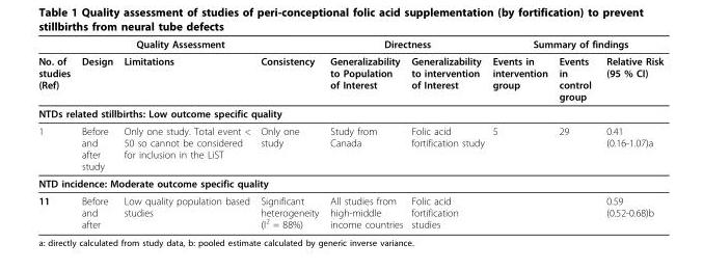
<table><thead><tr><td colspan="4">Quality Assessment</td><td colspan="2">Directness</td><td colspan="3">Summary of findings</td></tr><tr><td>No. of studies (Ref)</td><td>Design</td><td>Limitations</td><td>Consistency</td><td>Generalizability to Population of Interest</td><td>Generalizability to intervention of Interest</td><td>Events in intervention group</td><td>Events in control group</td><td>Relative Risk (95 % CI)</td></tr></thead><tbody><tr><td colspan="9">NTDs related stillbirths: Low outcome specific quality</td></tr><tr><td>1</td><td>Before and after study</td><td>Only one study. Total event &lt; 50 so cannot be considered for inclusion in the LiST</td><td>Only one study</td><td>Study from Canada</td><td>Folic acid fortification study</td><td>5</td><td>29</td><td>0.41 (0.16-1.07)a</td></tr><tr><td colspan="9">NTD incidence: Moderate outcome specific quality</td></tr><tr><td>11</td><td>Before and after</td><td>Low quality population based studies</td><td>Significant heterogeneity (I<sup>2</sup> = 88%)</td><td>All studies from high-middle income countries</td><td>Folic acid fortification studies</td><td></td><td></td><td>0.59 (0.52-0.68)b</td></tr></tbody></table>